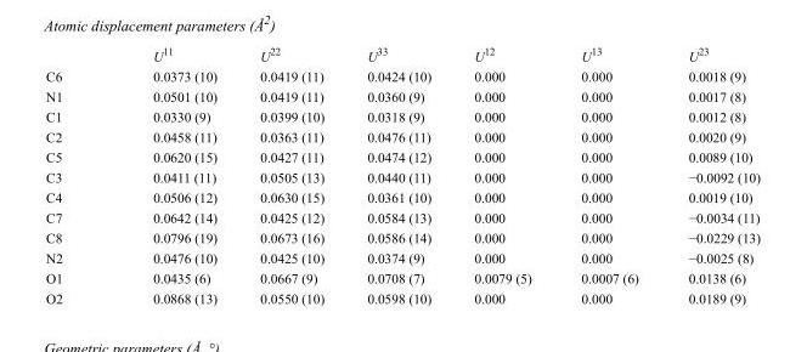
<table><thead><tr><td></td><td>U<sup>11</sup></td><td>U<sup>22</sup></td><td>U<sup>33</sup></td><td>U<sup>12</sup></td><td>U<sup>13</sup></td><td>U<sup>23</sup></td></tr></thead><tbody><tr><td>C6</td><td>0.0373 (10)</td><td>0.0419 (11)</td><td>0.0424 (10)</td><td>0.000</td><td>0.000</td><td>0.0018 (9)</td></tr><tr><td>N1</td><td>0.0501 (10)</td><td>0.0419 (11)</td><td>0.0360 (9)</td><td>0.000</td><td>0.000</td><td>0.0017 (8)</td></tr><tr><td>C1</td><td>0.0330 (9)</td><td>0.0399 (10)</td><td>0.0318 (9)</td><td>0.000</td><td>0.000</td><td>0.0012 (8)</td></tr><tr><td>C2</td><td>0.0458 (11)</td><td>0.0363 (11)</td><td>0.0476 (11)</td><td>0.000</td><td>0.000</td><td>0.0020 (9)</td></tr><tr><td>C5</td><td>0.0620 (15)</td><td>0.0427 (11)</td><td>0.0474 (12)</td><td>0.000</td><td>0.000</td><td>0.0089 (10)</td></tr><tr><td>C3</td><td>0.0411 (11)</td><td>0.0505 (13)</td><td>0.0440 (11)</td><td>0.000</td><td>0.000</td><td>−0.0092 (10)</td></tr><tr><td>C4</td><td>0.0506 (12)</td><td>0.0630 (15)</td><td>0.0361 (10)</td><td>0.000</td><td>0.000</td><td>0.0019 (10)</td></tr><tr><td>C7</td><td>0.0642 (14)</td><td>0.0425 (12)</td><td>0.0584 (13)</td><td>0.000</td><td>0.000</td><td>−0.0034 (11)</td></tr><tr><td>C8</td><td>0.0796 (19)</td><td>0.0673 (16)</td><td>0.0586 (14)</td><td>0.000</td><td>0.000</td><td>−0.0229 (13)</td></tr><tr><td>N2</td><td>0.0476 (10)</td><td>0.0425 (10)</td><td>0.0374 (9)</td><td>0.000</td><td>0.000</td><td>−0.0025 (8)</td></tr><tr><td>O1</td><td>0.0435 (6)</td><td>0.0667 (9)</td><td>0.0708 (7)</td><td>0.0079 (5)</td><td>0.0007 (6)</td><td>0.0138 (6)</td></tr><tr><td>O2</td><td>0.0868 (13)</td><td>0.0550 (10)</td><td>0.0598 (10)</td><td>0.000</td><td>0.000</td><td>0.0189 (9)</td></tr></tbody></table>